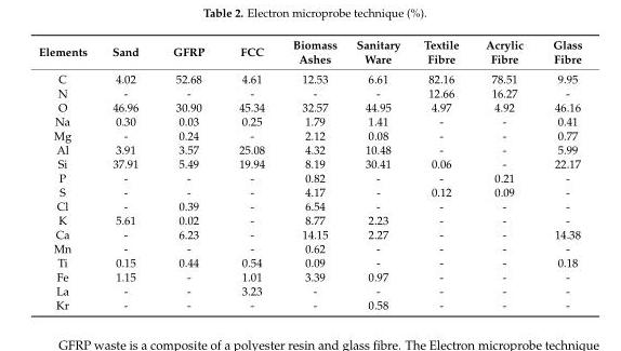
<table><thead><tr><td>Elements</td><td>Sand</td><td>GFRP</td><td>FCC</td><td>Biomass Ashes</td><td>Sanitary Ware</td><td>Textile Fibre</td><td>Acrylic Fibre</td><td>Glass Fibre</td></tr></thead><tbody><tr><td>C</td><td>4.02</td><td>52.68</td><td>4.61</td><td>12.53</td><td>6.61</td><td>82.16</td><td>78.51</td><td>9.95</td></tr><tr><td>N</td><td>-</td><td>-</td><td>-</td><td>-</td><td>-</td><td>12.66</td><td>16.27</td><td>-</td></tr><tr><td>O</td><td>46.96</td><td>30.90</td><td>45.34</td><td>32.57</td><td>44.95</td><td>4.97</td><td>4.92</td><td>46.16</td></tr><tr><td>Na</td><td>0.30</td><td>0.03</td><td>0.25</td><td>1.79</td><td>1.41</td><td>-</td><td>-</td><td>0.41</td></tr><tr><td>Mg</td><td>-</td><td>0.24</td><td>-</td><td>2.12</td><td>0.08</td><td>-</td><td>-</td><td>0.77</td></tr><tr><td>Al</td><td>3.91</td><td>3.57</td><td>25.08</td><td>4.32</td><td>10.48</td><td>-</td><td>-</td><td>5.99</td></tr><tr><td>Si</td><td>37.91</td><td>5.49</td><td>19.94</td><td>8.19</td><td>30.41</td><td>0.06</td><td>-</td><td>22.17</td></tr><tr><td>P</td><td>-</td><td>-</td><td>-</td><td>0.82</td><td>-</td><td>-</td><td>0.21</td><td>-</td></tr><tr><td>S</td><td>-</td><td>-</td><td>-</td><td>4.17</td><td>-</td><td>0.12</td><td>0.09</td><td>-</td></tr><tr><td>Cl</td><td>-</td><td>0.39</td><td>-</td><td>6.54</td><td>-</td><td>-</td><td>-</td><td>-</td></tr><tr><td>K</td><td>5.61</td><td>0.02</td><td>-</td><td>8.77</td><td>2.23</td><td>-</td><td>-</td><td>-</td></tr><tr><td>Ca</td><td>-</td><td>6.23</td><td>-</td><td>14.15</td><td>2.27</td><td>-</td><td>-</td><td>14.38</td></tr><tr><td>Mn</td><td>-</td><td>-</td><td>-</td><td>0.62</td><td>-</td><td>-</td><td>-</td><td>-</td></tr><tr><td>Ti</td><td>0.15</td><td>0.44</td><td>0.54</td><td>0.09</td><td>-</td><td>-</td><td>-</td><td>0.18</td></tr><tr><td>Fe</td><td>1.15</td><td>-</td><td>1.01</td><td>3.39</td><td>0.97</td><td>-</td><td>-</td><td>-</td></tr><tr><td>La</td><td>-</td><td>-</td><td>3.23</td><td>-</td><td>-</td><td>-</td><td>-</td><td>-</td></tr><tr><td>Kr</td><td>-</td><td>-</td><td>-</td><td>-</td><td>0.58</td><td>-</td><td>-</td><td>-</td></tr></tbody></table>